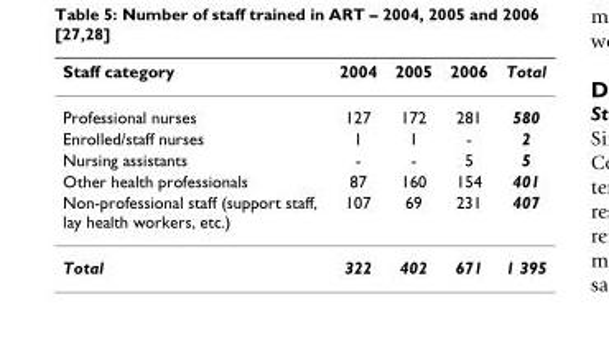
<table><thead><tr><td>Staff category</td><td>2004</td><td>2005</td><td>2006</td><td>Total</td></tr></thead><tbody><tr><td>Professional nurses</td><td>127</td><td>172</td><td>281</td><td>580</td></tr><tr><td>Enrolled/staff nurses</td><td>1</td><td>1</td><td>-</td><td>2</td></tr><tr><td>Nursing assistants</td><td>-</td><td>-</td><td>5</td><td>5</td></tr><tr><td>Other health professionals</td><td>87</td><td>160</td><td>154</td><td>401</td></tr><tr><td>Non-professional staff (support staff, lay health workers, etc.)</td><td>107</td><td>69</td><td>231</td><td>407</td></tr><tr><td>Total</td><td>322</td><td>402</td><td>671</td><td>1 395</td></tr></tbody></table>